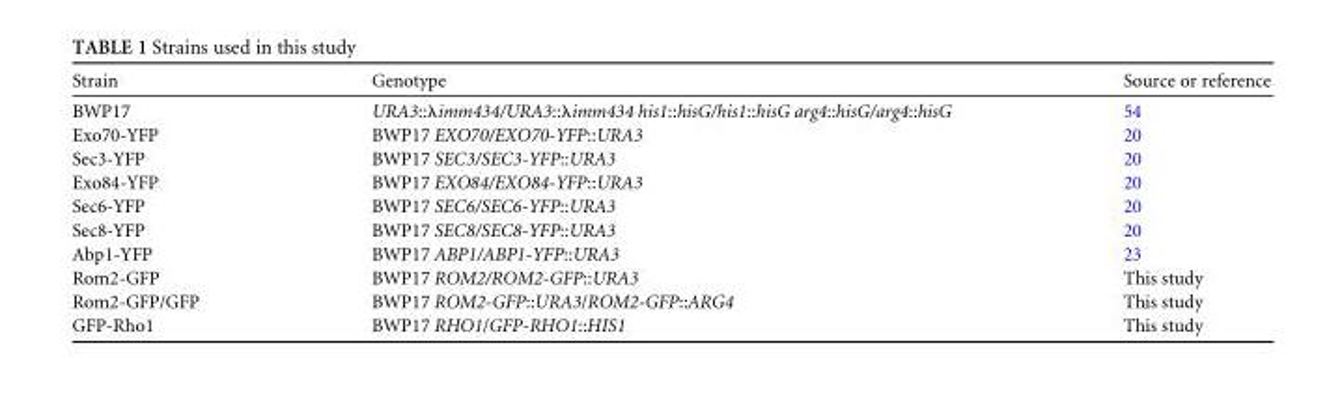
<table><thead><tr><td>Strain</td><td>Genotype</td><td>Source or reference</td></tr></thead><tbody><tr><td>BWP17</td><td>URA3::λimm434/URA3::λimm434 his1::hisG/his1::hisG arg4::hisG/arg4::hisG</td><td>54</td></tr><tr><td>Exo70-YFP</td><td>BWP17 EXO70/EXO70-YFP::URA3</td><td>20</td></tr><tr><td>Sec3-YFP</td><td>BWP17 SEC3/SEC3-YFP::URA3</td><td>20</td></tr><tr><td>Exo84-YFP</td><td>BWP17 EXO84/EXO84-YFP::URA3</td><td>20</td></tr><tr><td>Sec6-YFP</td><td>BWP17 SEC6/SEC6-YFP::URA3</td><td>20</td></tr><tr><td>Sec8-YFP</td><td>BWP17 SEC8/SEC8-YFP::URA3</td><td>20</td></tr><tr><td>Abp1-YFP</td><td>BWP17 ABP1/ABP1-YFP::URA3</td><td>23</td></tr><tr><td>Rom2-GFP</td><td>BWP17 ROM2/ROM2-GFP::URA3</td><td>This study</td></tr><tr><td>Rom2-GFP/GFP</td><td>BWP17 ROM2-GFP::URA3/ROM2-GFP::ARG4</td><td>This study</td></tr><tr><td>GFP-Rho1</td><td>BWP17 RHO1/GFP-RHO1::HIS1</td><td>This study</td></tr></tbody></table>